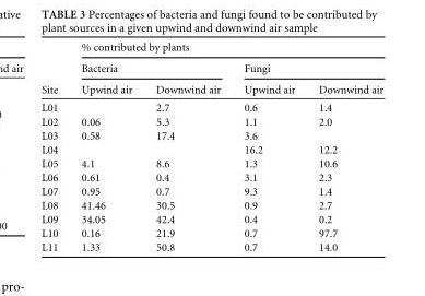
<table><thead><tr><td rowspan="3">Site</td><td colspan="4">% contributed by plants</td></tr><tr><td colspan="2">Bacteria</td><td colspan="2">Fungi</td></tr><tr><td>Upwind air</td><td>Downwind air</td><td>Upwind air</td><td>Downwind air</td></tr></thead><tbody><tr><td>L01</td><td></td><td>2.7</td><td>0.6</td><td>1.4</td></tr><tr><td>L02</td><td>0.06</td><td>5.3</td><td>1.1</td><td>2.0</td></tr><tr><td>L03</td><td>0.58</td><td>17.4</td><td>3.6</td><td></td></tr><tr><td>L04</td><td></td><td></td><td>16.2</td><td>12.2</td></tr><tr><td>L05</td><td>4.1</td><td>8.6</td><td>1.3</td><td>10.6</td></tr><tr><td>L06</td><td>0.61</td><td>0.4</td><td>3.1</td><td>2.3</td></tr><tr><td>L07</td><td>0.95</td><td>0.7</td><td>9.3</td><td>1.4</td></tr><tr><td>L08</td><td>41.46</td><td>30.5</td><td>0.9</td><td>2.7</td></tr><tr><td>L09</td><td>34.05</td><td>42.4</td><td>0.4</td><td>0.2</td></tr><tr><td>L10</td><td>0.16</td><td>21.9</td><td>0.7</td><td>97.7</td></tr><tr><td>L11</td><td>1.33</td><td>50.8</td><td>0.7</td><td>14.0</td></tr></tbody></table>